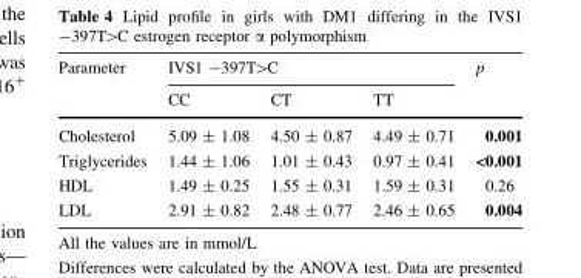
<table><thead><tr><td rowspan="2">Parameter</td><td colspan="3">IVS1 -397T&gt;C</td><td rowspan="2">p</td></tr><tr><td>CC</td><td>CT</td><td>TT</td></tr></thead><tbody><tr><td>Cholesterol</td><td>5.09 ± 1.08</td><td>4.50 ± 0.87</td><td>4.49 ± 0.71</td><td>0.001</td></tr><tr><td>Triglycerides</td><td>1.44 ± 1.06</td><td>1.01 ± 0.43</td><td>0.97 ± 0.41</td><td>&lt;0.001</td></tr><tr><td>HDL</td><td>1.49 ± 0.25</td><td>1.55 ± 0.31</td><td>1.59 ± 0.31</td><td>0.26</td></tr><tr><td>LDL</td><td>2.91 ± 0.82</td><td>2.48 ± 0.77</td><td>2.46 ± 0.65</td><td>0.004</td></tr></tbody></table>